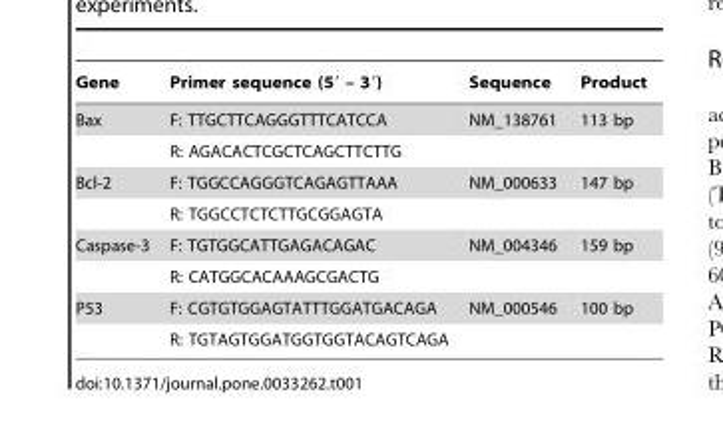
<table><thead><tr><td>Gene</td><td>Primer sequence (5′ – 3′)</td><td>Sequence</td><td>Product</td></tr></thead><tbody><tr><td rowspan="2">Bax</td><td>F: TTGCTTCAGGGTTTCATCCA</td><td>NM_138761</td><td>113 bp</td></tr><tr><td>R: AGACACTCGCTCAGCTTCTTG</td><td></td><td></td></tr><tr><td rowspan="2">Bcl-2</td><td>F: TGGCCAGGGTCAGAGTTAAA</td><td>NM_000633</td><td>147 bp</td></tr><tr><td>R: TGGCCTCTCTTGCGGAGTA</td><td></td><td></td></tr><tr><td rowspan="2">Caspase-3</td><td>F: TGTGGCATTGAGACAGAC</td><td>NM_004346</td><td>159 bp</td></tr><tr><td>R: CATGGCACAAAGCGACTG</td><td></td><td></td></tr><tr><td rowspan="2">P53</td><td>F: CGTGTGGAGTATTTGGATGACAGA</td><td>NM_000546</td><td>100 bp</td></tr><tr><td>R: TGTAGTGGATGGTGGTACAGTCAGA</td><td></td><td></td></tr></tbody></table>